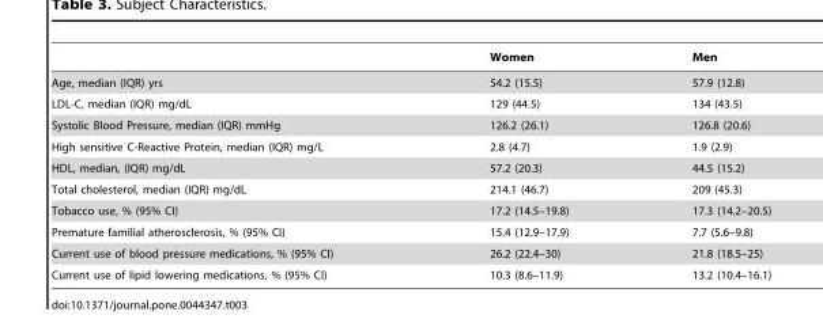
<table><thead><tr><td></td><td>Women</td><td>Men</td></tr></thead><tbody><tr><td>Age, median (IQR) yrs</td><td>54.2 (15.5)</td><td>57.9 (12.8)</td></tr><tr><td>LDL-C, median (IQR) mg/dL</td><td>129 (44.5)</td><td>134 (43.5)</td></tr><tr><td>Systolic Blood Pressure, median (IQR) mmHg</td><td>126.2 (26.1)</td><td>126.8 (20.6)</td></tr><tr><td>High sensitive C-Reactive Protein, median (IQR) mg/L</td><td>2.8 (4.7)</td><td>1.9 (2.9)</td></tr><tr><td>HDL, median, (IQR) mg/dL</td><td>57.2 (20.3)</td><td>44.5 (15.2)</td></tr><tr><td>Total cholesterol, median (IQR) mg/dL</td><td>214.1 (46.7)</td><td>209 (45.3)</td></tr><tr><td>Tobacco use, % (95% CI)</td><td>17.2 (14.5–19.8)</td><td>17.3 (14.2–20.5)</td></tr><tr><td>Premature familial atherosclerosis, % (95% CI)</td><td>15.4 (12.9–17.9)</td><td>7.7 (5.6–9.8)</td></tr><tr><td>Current use of blood pressure medications, % (95% CI)</td><td>26.2 (22.4–30)</td><td>21.8 (18.5–25)</td></tr><tr><td>Current use of lipid lowering medications, % (95% CI)</td><td>10.3 (8.6–11.9)</td><td>13.2 (10.4–16.1)</td></tr></tbody></table>